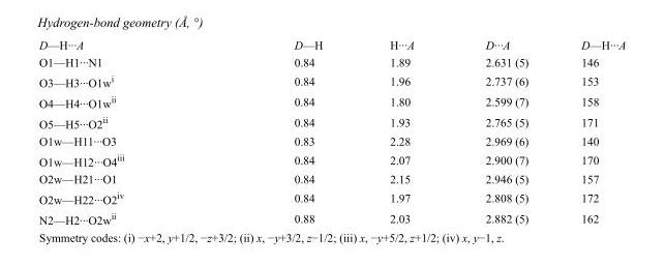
<table><tbody><tr><td>D—H···A</td><td>D—H</td><td>H···A</td><td>D···A</td><td>D—H···A</td></tr><tr><td>O1—H1···N1</td><td>0.84</td><td>1.89</td><td>2.631 (5)</td><td>146</td></tr><tr><td>O3—H3···O1w<sup>i</sup></td><td>0.84</td><td>1.96</td><td>2.737 (6)</td><td>153</td></tr><tr><td>O4—H4···O1w<sup>ii</sup></td><td>0.84</td><td>1.80</td><td>2.599 (7)</td><td>158</td></tr><tr><td>O5—H5···O2<sup>ii</sup></td><td>0.84</td><td>1.93</td><td>2.765 (5)</td><td>171</td></tr><tr><td>O1w—H11···O3</td><td>0.83</td><td>2.28</td><td>2.969 (6)</td><td>140</td></tr><tr><td>O1w—H12···O4<sup>iii</sup></td><td>0.84</td><td>2.07</td><td>2.900 (7)</td><td>170</td></tr><tr><td>O2w—H21···O1</td><td>0.84</td><td>2.15</td><td>2.946 (5)</td><td>157</td></tr><tr><td>O2w—H22···O2<sup>iv</sup></td><td>0.84</td><td>1.97</td><td>2.808 (5)</td><td>172</td></tr><tr><td>N2—H2···O2w<sup>ii</sup></td><td>0.88</td><td>2.03</td><td>2.882 (5)</td><td>162</td></tr></tbody></table>